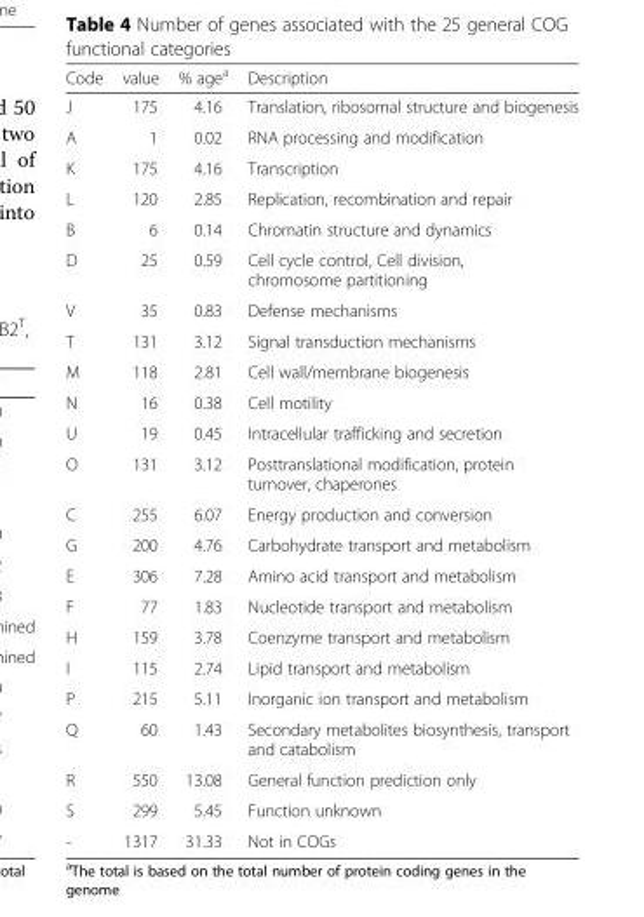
<table><thead><tr><td>Code</td><td>value</td><td>% age<sup>a</sup></td><td>Description</td></tr></thead><tbody><tr><td>J</td><td>175</td><td>4.16</td><td>Translation, ribosomal structure and biogenesis</td></tr><tr><td>A</td><td>1</td><td>0.02</td><td>RNA processing and modification</td></tr><tr><td>K</td><td>175</td><td>4.16</td><td>Transcription</td></tr><tr><td>L</td><td>120</td><td>2.85</td><td>Replication, recombination and repair</td></tr><tr><td>B</td><td>6</td><td>0.14</td><td>Chromatin structure and dynamics</td></tr><tr><td>D</td><td>25</td><td>0.59</td><td>Cell cycle control, Cell division, chromosome partitioning</td></tr><tr><td>V</td><td>35</td><td>0.83</td><td>Defense mechanisms</td></tr><tr><td>T</td><td>131</td><td>3.12</td><td>Signal transduction mechanisms</td></tr><tr><td>M</td><td>118</td><td>2.81</td><td>Cell wall/membrane biogenesis</td></tr><tr><td>N</td><td>16</td><td>0.38</td><td>Cell motility</td></tr><tr><td>U</td><td>19</td><td>0.45</td><td>Intracellular trafficking and secretion</td></tr><tr><td>O</td><td>131</td><td>3.12</td><td>Posttranslational modification, protein turnover, chaperones</td></tr><tr><td>C</td><td>255</td><td>6.07</td><td>Energy production and conversion</td></tr><tr><td>G</td><td>200</td><td>4.76</td><td>Carbohydrate transport and metabolism</td></tr><tr><td>E</td><td>306</td><td>7.28</td><td>Amino acid transport and metabolism</td></tr><tr><td>F</td><td>77</td><td>1.83</td><td>Nucleotide transport and metabolism</td></tr><tr><td>H</td><td>159</td><td>3.78</td><td>Coenzyme transport and metabolism</td></tr><tr><td>I</td><td>115</td><td>2.74</td><td>Lipid transport and metabolism</td></tr><tr><td>P</td><td>215</td><td>5.11</td><td>Inorganic ion transport and metabolism</td></tr><tr><td>Q</td><td>60</td><td>1.43</td><td>Secondary metabolites biosynthesis, transport and catabolism</td></tr><tr><td>R</td><td>550</td><td>13.08</td><td>General function prediction only</td></tr><tr><td>S</td><td>299</td><td>5.45</td><td>Function unknown</td></tr><tr><td>-</td><td>1317</td><td>31.33</td><td>Not in COGs</td></tr></tbody></table>